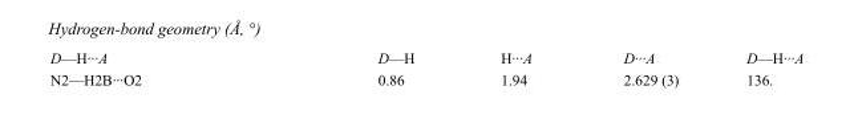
<table><tbody><tr><td>D—H···A</td><td>D—H</td><td>H···A</td><td>D···A</td><td>D—H···A</td></tr><tr><td>N2—H2B···O2</td><td>0.86</td><td>1.94</td><td>2.629 (3)</td><td>136.</td></tr></tbody></table>